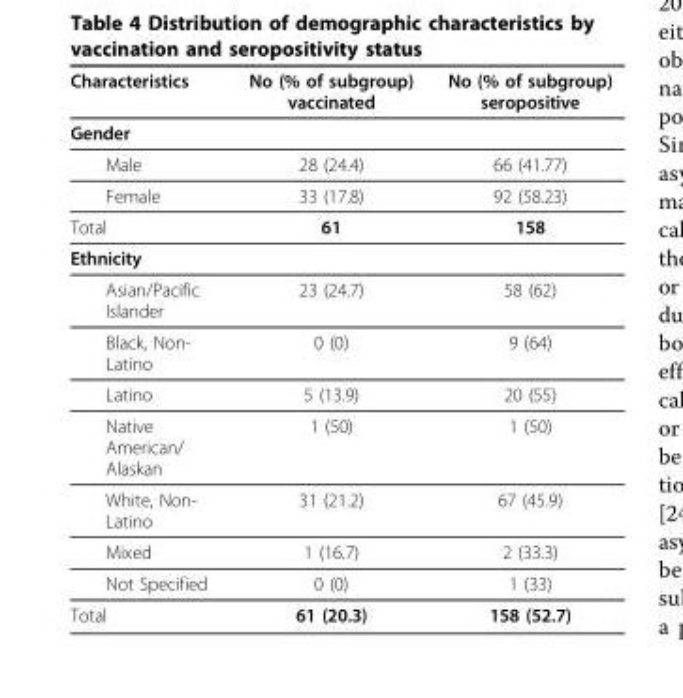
<table><thead><tr><td>Characteristics</td><td>No (% of subgroup) vaccinated</td><td>No (% of subgroup) seropositive</td></tr></thead><tbody><tr><td colspan="3">Gender</td></tr><tr><td>Male</td><td>28 (24.4)</td><td>66 (41.77)</td></tr><tr><td>Female</td><td>33 (17.8)</td><td>92 (58.23)</td></tr><tr><td>Total</td><td>61</td><td>158</td></tr><tr><td colspan="3">Ethnicity</td></tr><tr><td>Asian/Pacific Islander</td><td>23 (24.7)</td><td>58 (62)</td></tr><tr><td>Black, Non- Latino</td><td>0 (0)</td><td>9 (64)</td></tr><tr><td>Latino</td><td>5 (13.9)</td><td>20 (55)</td></tr><tr><td>Native American/ Alaskan</td><td>1 (50)</td><td>1 (50)</td></tr><tr><td>White, Non- Latino</td><td>31 (21.2)</td><td>67 (45.9)</td></tr><tr><td>Mixed</td><td>1 (16.7)</td><td>2 (33.3)</td></tr><tr><td>Not Specified</td><td>0 (0)</td><td>1 (33)</td></tr><tr><td>Total</td><td>61 (20.3)</td><td>158 (52.7)</td></tr></tbody></table>